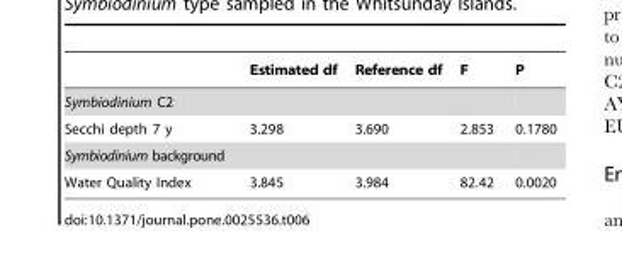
<table><thead><tr><td></td><td>Estimated df</td><td>Reference df</td><td>F</td><td>P</td></tr></thead><tbody><tr><td colspan="5">Symbiodinium C2</td></tr><tr><td>Secchi depth 7 y</td><td>3.298</td><td>3.690</td><td>2.853</td><td>0.1780</td></tr><tr><td colspan="5">Symbiodinium background</td></tr><tr><td>Water Quality Index</td><td>3.845</td><td>3.984</td><td>82.42</td><td>0.0020</td></tr></tbody></table>